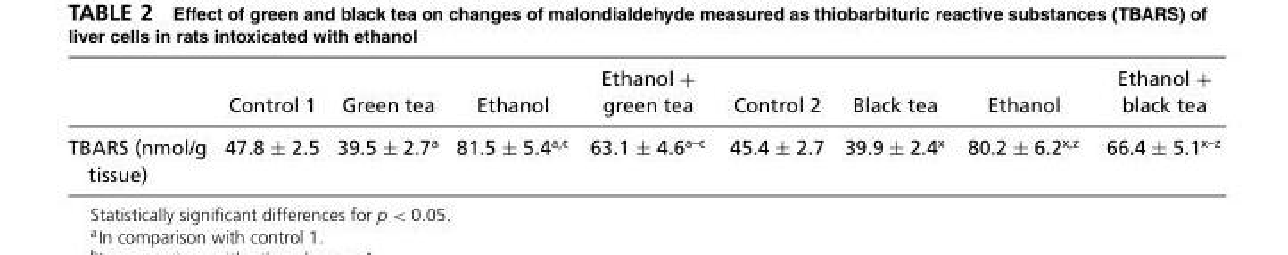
<table><thead><tr><td></td><td>Control 1</td><td>Green tea</td><td>Ethanol</td><td>Ethanol + green tea</td><td>Control 2</td><td>Black tea</td><td>Ethanol</td><td>Ethanol + black tea</td></tr></thead><tbody><tr><td>TBARS (nmol/g tissue)</td><td>47.8 ± 2.5</td><td>39.5 ± 2.7<sup>a</sup></td><td>81.5 ± 5.4<sup>a</sup>,<sup>c</sup></td><td>63.1 ± 4.6<sup>a</sup>–<sup>c</sup></td><td>45.4 ± 2.7</td><td>39.9 ± 2.4<sup>x</sup></td><td>80.2 ± 6.2<sup>x</sup>,<sup>z</sup></td><td>66.4 ± 5.1<sup>x</sup>–<sup>z</sup></td></tr></tbody></table>